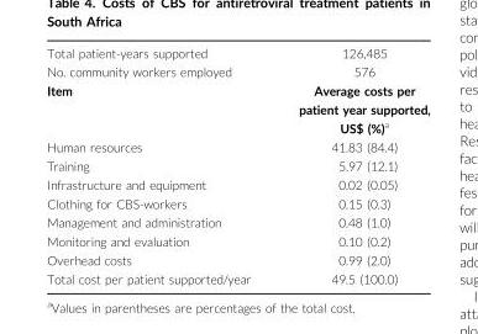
<table><tbody><tr><td>Total patient-years supported</td><td>126,485</td></tr><tr><td>No. community workers employed</td><td>576</td></tr><tr><td>Item</td><td>Average costs per patient year supported, US$ (%)a</td></tr><tr><td>Human resources</td><td>41.83 (84.4)</td></tr><tr><td>Training</td><td>5.97 (12.1)</td></tr><tr><td>Infrastructure and equipment</td><td>0.02 (0.05)</td></tr><tr><td>Clothing for CBS-workers</td><td>0.15 (0.3)</td></tr><tr><td>Management and administration</td><td>0.48 (1.0)</td></tr><tr><td>Monitoring and evaluation</td><td>0.10 (0.2)</td></tr><tr><td>Overhead costs</td><td>0.99 (2.0)</td></tr><tr><td>Total cost per patient supported/year</td><td>49.5 (100.0)</td></tr></tbody></table>